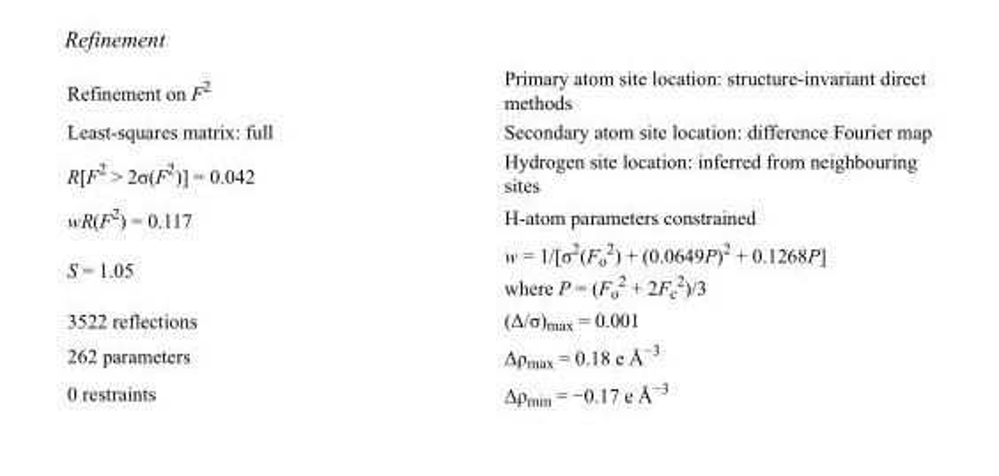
<table><tbody><tr><td>Refinement on F<sup>2</sup></td><td>Primary atom site location: structure-invariant direct methods</td></tr><tr><td>Least-squares matrix: full</td><td>Secondary atom site location: difference Fourier map</td></tr><tr><td>R[F<sup>2</sup> &gt; 2σ(F<sup>2</sup>)] = 0.042</td><td>Hydrogen site location: inferred from neighbouring sites</td></tr><tr><td>wR(F<sup>2</sup>) = 0.117</td><td>H-atom parameters constrained</td></tr><tr><td>S = 1.05</td><td>w = 1/[σ<sup>2</sup>(F<sub>o</sub> <sup>2</sup>) + (0.0649P)<sup>2</sup> + 0.1268P] where P = (F<sub>o</sub> <sup>2</sup> + 2F<sub>c</sub> <sup>2</sup>)/3</td></tr><tr><td>3522 reflections</td><td>(Δ/σ)<sub>max</sub> = 0.001</td></tr><tr><td>262 parameters</td><td>Δρ<sub>max</sub> = 0.18 e Å<sup>−3</sup></td></tr><tr><td>0 restraints</td><td>Δρ<sub>min</sub> = −0.17 e Å<sup>−3</sup></td></tr></tbody></table>